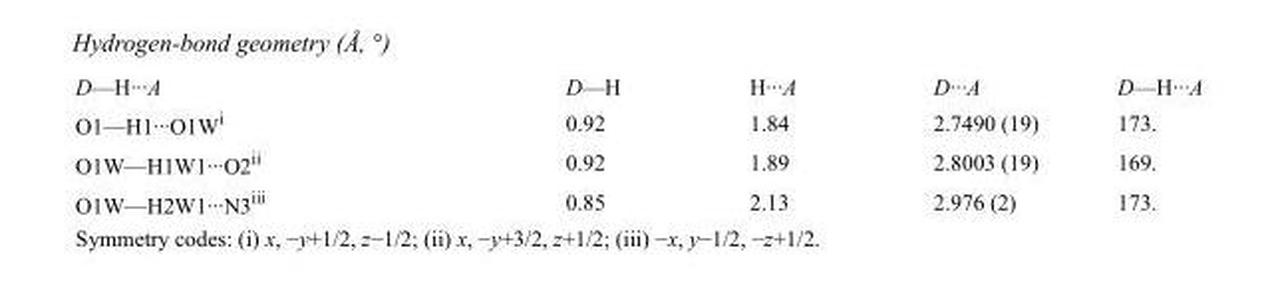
<table><tbody><tr><td>D—H···A</td><td>D—H</td><td>H···A</td><td>D···A</td><td>D—H···A</td></tr><tr><td>O1—H1···O1W<sup>i</sup></td><td>0.92</td><td>1.84</td><td>2.7490 (19)</td><td>173.</td></tr><tr><td>O1W—H1W1···O2<sup>ii</sup></td><td>0.92</td><td>1.89</td><td>2.8003 (19)</td><td>169.</td></tr><tr><td>O1W—H2W1···N3<sup>iii</sup></td><td>0.85</td><td>2.13</td><td>2.976 (2)</td><td>173.</td></tr></tbody></table>